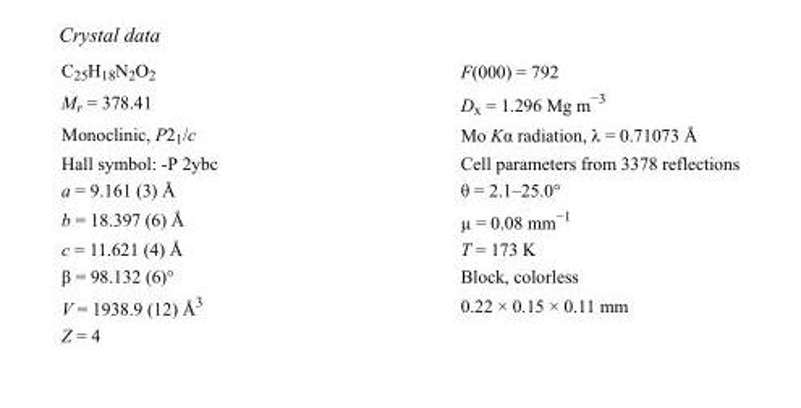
<table><tbody><tr><td>C<sub>25</sub>H<sub>18</sub>N<sub>2</sub>O<sub>2</sub></td><td>F(000) = 792</td></tr><tr><td>M<sub>r</sub> = 378.41</td><td>D<sub>x</sub> = 1.296 Mg m<sup>−3</sup></td></tr><tr><td>Monoclinic, P2<sub>1</sub>/c</td><td>Mo Kα radiation, λ = 0.71073 Å</td></tr><tr><td>Hall symbol: -P 2ybc</td><td>Cell parameters from 3378 reflections</td></tr><tr><td>a = 9.161 (3) Å</td><td>θ = 2.1–25.0°</td></tr><tr><td>b = 18.397 (6) Å</td><td>µ = 0.08 mm<sup>−1</sup></td></tr><tr><td>c = 11.621 (4) Å</td><td>T = 173 K</td></tr><tr><td>β = 98.132 (6)°</td><td>Block, colorless</td></tr><tr><td>V = 1938.9 (12) Å<sup>3</sup></td><td>0.22 × 0.15 × 0.11 mm</td></tr><tr><td>Z = 4</td><td></td></tr></tbody></table>